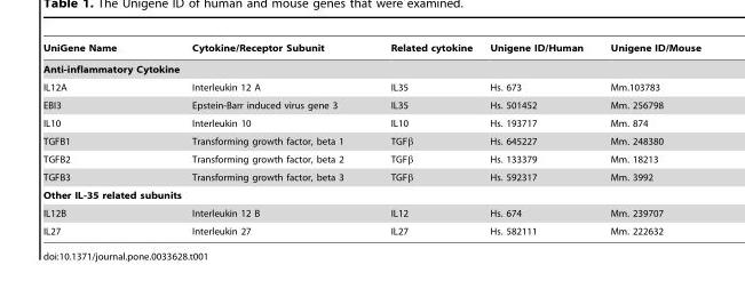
<table><thead><tr><td>UniGene Name</td><td>Cytokine/Receptor Subunit</td><td>Related cytokine</td><td>Unigene ID/Human</td><td>Unigene ID/Mouse</td></tr></thead><tbody><tr><td colspan="5">Anti-inflammatory Cytokine</td></tr><tr><td>IL12A</td><td>Interleukin 12 A</td><td>IL35</td><td>Hs. 673</td><td>Mm.103783</td></tr><tr><td>EBI3</td><td>Epstein-Barr induced virus gene 3</td><td>IL35</td><td>Hs. 501452</td><td>Mm. 256798</td></tr><tr><td>IL10</td><td>Interleukin 10</td><td>IL10</td><td>Hs. 193717</td><td>Mm. 874</td></tr><tr><td>TGFB1</td><td>Transforming growth factor, beta 1</td><td>TGFβ</td><td>Hs. 645227</td><td>Mm. 248380</td></tr><tr><td>TGFB2</td><td>Transforming growth factor, beta 2</td><td>TGFβ</td><td>Hs. 133379</td><td>Mm. 18213</td></tr><tr><td>TGFB3</td><td>Transforming growth factor, beta 3</td><td>TGFβ</td><td>Hs. 592317</td><td>Mm. 3992</td></tr><tr><td colspan="5">Other IL-35 related subunits</td></tr><tr><td>IL12B</td><td>Interleukin 12 B</td><td>IL12</td><td>Hs. 674</td><td>Mm. 239707</td></tr><tr><td>IL27</td><td>Interleukin 27</td><td>IL27</td><td>Hs. 582111</td><td>Mm. 222632</td></tr></tbody></table>